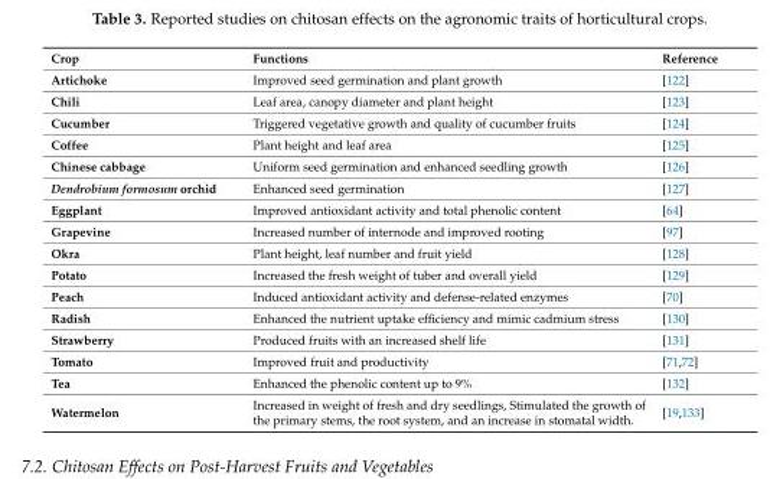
<table><thead><tr><td>Crop</td><td>Functions</td><td>Reference</td></tr></thead><tbody><tr><td>Artichoke</td><td>Improved seed germination and plant growth</td><td>[122]</td></tr><tr><td>Chili</td><td>Leaf area, canopy diameter and plant height</td><td>[123]</td></tr><tr><td>Cucumber</td><td>Triggered vegetative growth and quality of cucumber fruits</td><td>[124]</td></tr><tr><td>Coffee</td><td>Plant height and leaf area</td><td>[125]</td></tr><tr><td>Chinese cabbage</td><td>Uniform seed germination and enhanced seedling growth</td><td>[126]</td></tr><tr><td>Dendrobium formosum orchid</td><td>Enhanced seed germination</td><td>[127]</td></tr><tr><td>Eggplant</td><td>Improved antioxidant activity and total phenolic content</td><td>[64]</td></tr><tr><td>Grapevine</td><td>Increased number of internode and improved rooting</td><td>[97]</td></tr><tr><td>Okra</td><td>Plant height, leaf number and fruit yield</td><td>[128]</td></tr><tr><td>Potato</td><td>Increased the fresh weight of tuber and overall yield</td><td>[129]</td></tr><tr><td>Peach</td><td>Induced antioxidant activity and defense-related enzymes</td><td>[70]</td></tr><tr><td>Radish</td><td>Enhanced the nutrient uptake efficiency and mimic cadmium stress</td><td>[130]</td></tr><tr><td>Strawberry</td><td>Produced fruits with an increased shelf life</td><td>[131]</td></tr><tr><td>Tomato</td><td>Improved fruit and productivity</td><td>[71,72]</td></tr><tr><td>Tea</td><td>Enhanced the phenolic content up to 9%</td><td>[132]</td></tr><tr><td>Watermelon</td><td>Increased in weight of fresh and dry seedlings, Stimulated the growth of the primary stems, the root system, and an increase in stomatal width.</td><td>[19,133]</td></tr></tbody></table>